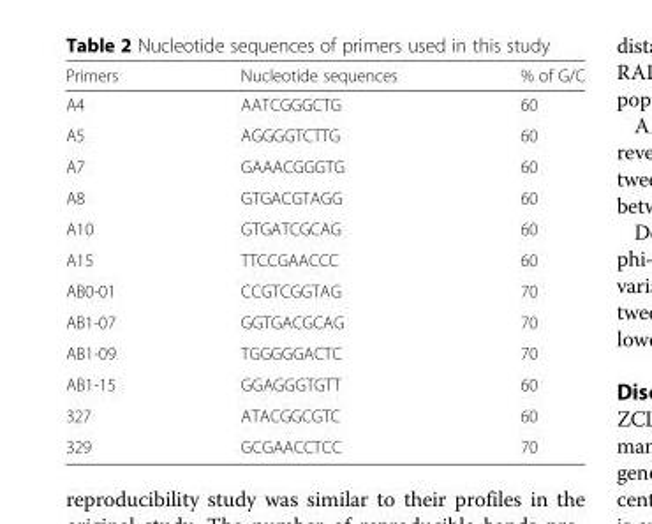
<table><thead><tr><td>Primers</td><td>Nucleotide sequences</td><td>% of G/C</td></tr></thead><tbody><tr><td>A4</td><td>AATCGGGCTG</td><td>60</td></tr><tr><td>A5</td><td>AGGGGTCTTG</td><td>60</td></tr><tr><td>A7</td><td>GAAACGGGTG</td><td>60</td></tr><tr><td>A8</td><td>GTGACGTAGG</td><td>60</td></tr><tr><td>A10</td><td>GTGATCGCAG</td><td>60</td></tr><tr><td>A15</td><td>TTCCGAACCC</td><td>60</td></tr><tr><td>AB0-01</td><td>CCGTCGGTAG</td><td>70</td></tr><tr><td>AB1-07</td><td>GGTGACGCAG</td><td>70</td></tr><tr><td>AB1-09</td><td>TGGGGGACTC</td><td>70</td></tr><tr><td>AB1-15</td><td>GGAGGGTGTT</td><td>60</td></tr><tr><td>327</td><td>ATACGGCGTC</td><td>60</td></tr><tr><td>329</td><td>GCGAACCTCC</td><td>70</td></tr></tbody></table>